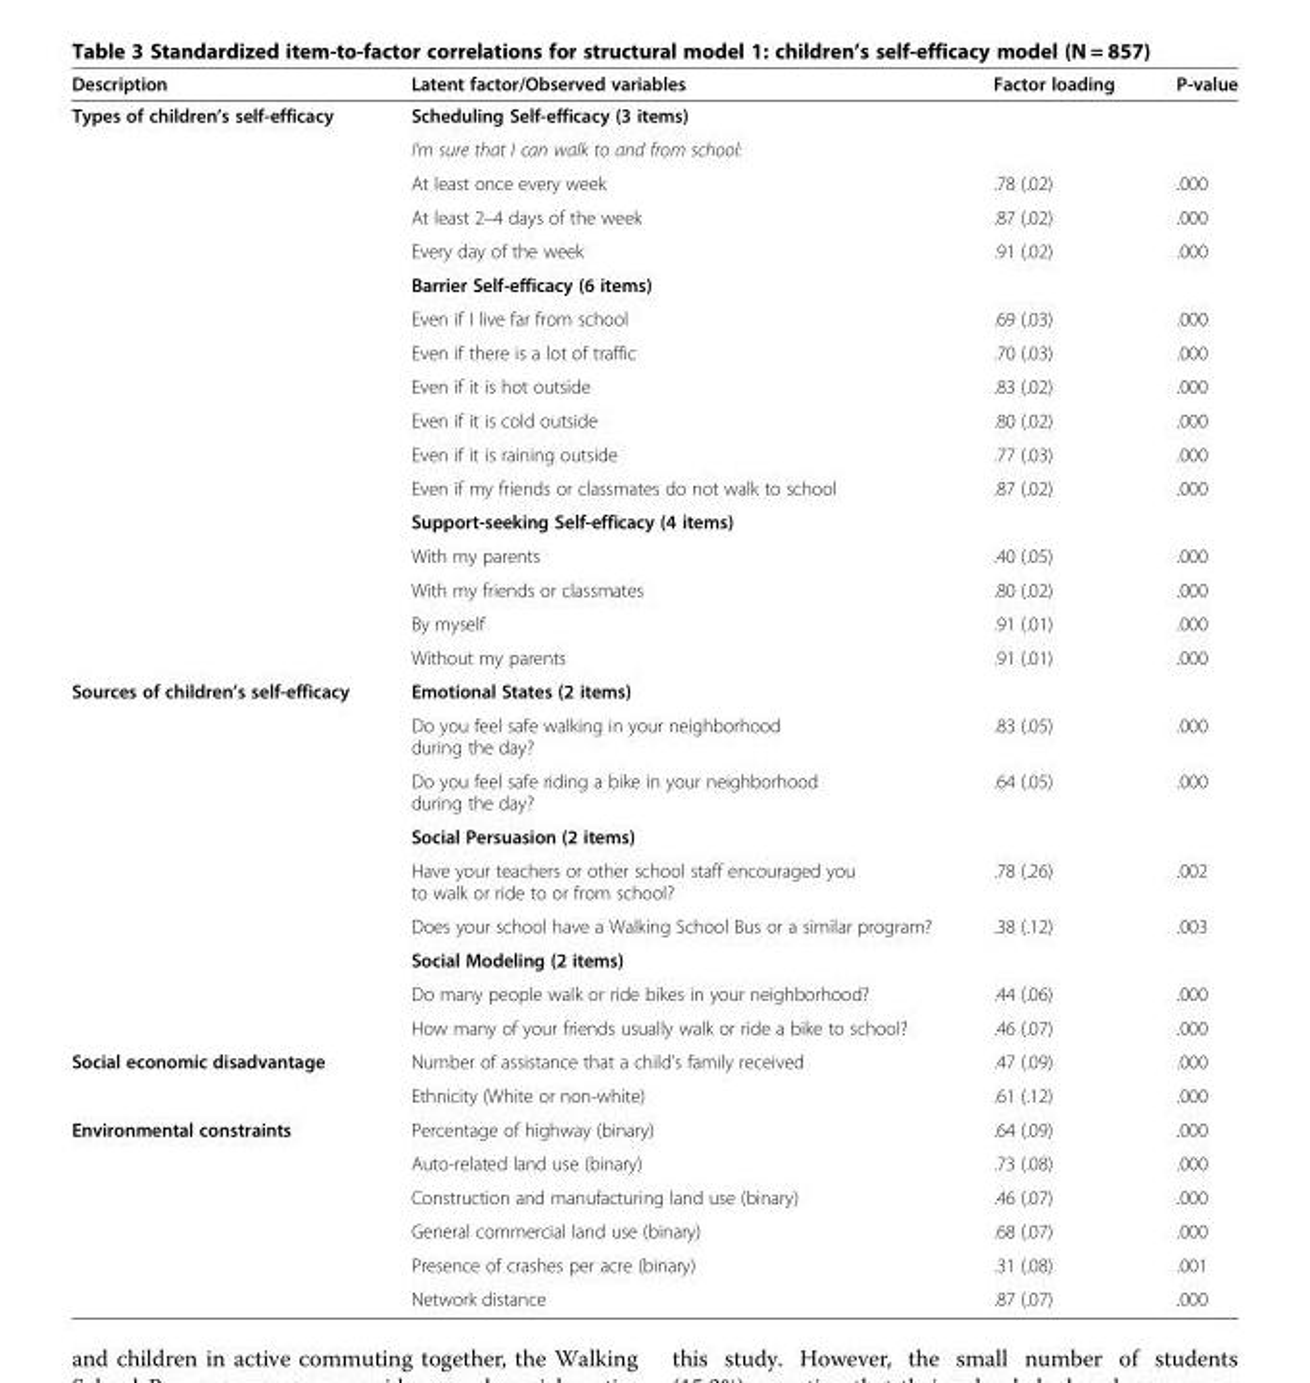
<table><thead><tr><td>Description</td><td>Latent factor/Observed variables</td><td>Factor loading</td><td>P-value</td></tr></thead><tbody><tr><td rowspan="17">Types of children’s self-efficacy</td><td>Scheduling Self-efficacy (3 items)</td><td></td><td></td></tr><tr><td>I’m sure that I can walk to and from school:</td><td></td><td></td></tr><tr><td>At least once every week</td><td>.78 (.02)</td><td>.000</td></tr><tr><td>At least 2–4 days of the week</td><td>.87 (.02)</td><td>.000</td></tr><tr><td>Every day of the week</td><td>.91 (.02)</td><td>.000</td></tr><tr><td>Barrier Self-efficacy (6 items)</td><td></td><td></td></tr><tr><td>Even if I live far from school</td><td>.69 (.03)</td><td>.000</td></tr><tr><td>Even if there is a lot of traffic</td><td>.70 (.03)</td><td>.000</td></tr><tr><td>Even if it is hot outside</td><td>.83 (.02)</td><td>.000</td></tr><tr><td>Even if it is cold outside</td><td>.80 (.02)</td><td>.000</td></tr><tr><td>Even if it is raining outside</td><td>.77 (.03)</td><td>.000</td></tr><tr><td>Even if my friends or classmates do not walk to school</td><td>.87 (.02)</td><td>.000</td></tr><tr><td>Support-seeking Self-efficacy (4 items)</td><td></td><td></td></tr><tr><td>With my parents</td><td>.40 (.05)</td><td>.000</td></tr><tr><td>With my friends or classmates</td><td>.80 (.02)</td><td>.000</td></tr><tr><td>By myself</td><td>.91 (.01)</td><td>.000</td></tr><tr><td>Without my parents</td><td>.91 (.01)</td><td>.000</td></tr><tr><td rowspan="9">Sources of children’s self-efficacy</td><td>Emotional States (2 items)</td><td></td><td></td></tr><tr><td>Do you feel safe walking in your neighborhood during the day?</td><td>.83 (.05)</td><td>.000</td></tr><tr><td>Do you feel safe riding a bike in your neighborhood during the day?</td><td>.64 (.05)</td><td>.000</td></tr><tr><td>Social Persuasion (2 items)</td><td></td><td></td></tr><tr><td>Have your teachers or other school staff encouraged you to walk or ride to or from school?</td><td>.78 (.26)</td><td>.002</td></tr><tr><td>Does your school have a Walking School Bus or a similar program?</td><td>.38 (.12)</td><td>.003</td></tr><tr><td>Social Modeling (2 items)</td><td></td><td></td></tr><tr><td>Do many people walk or ride bikes in your neighborhood?</td><td>.44 (.06)</td><td>.000</td></tr><tr><td>How many of your friends usually walk or ride a bike to school?</td><td>.46 (.07)</td><td>.000</td></tr><tr><td rowspan="2">Social economic disadvantage</td><td>Number of assistance that a child’s family received</td><td>.47 (.09)</td><td>.000</td></tr><tr><td>Ethnicity (White or non-white)</td><td>.61 (.12)</td><td>.000</td></tr><tr><td rowspan="6">Environmental constraints</td><td>Percentage of highway (binary)</td><td>.64 (.09)</td><td>.000</td></tr><tr><td>Auto-related land use (binary)</td><td>.73 (.08)</td><td>.000</td></tr><tr><td>Construction and manufacturing land use (binary)</td><td>.46 (.07)</td><td>.000</td></tr><tr><td>General commercial land use (binary)</td><td>.68 (.07)</td><td>.000</td></tr><tr><td>Presence of crashes per acre (binary)</td><td>.31 (.08)</td><td>.001</td></tr><tr><td>Network distance</td><td>.87 (.07)</td><td>.000</td></tr></tbody></table>